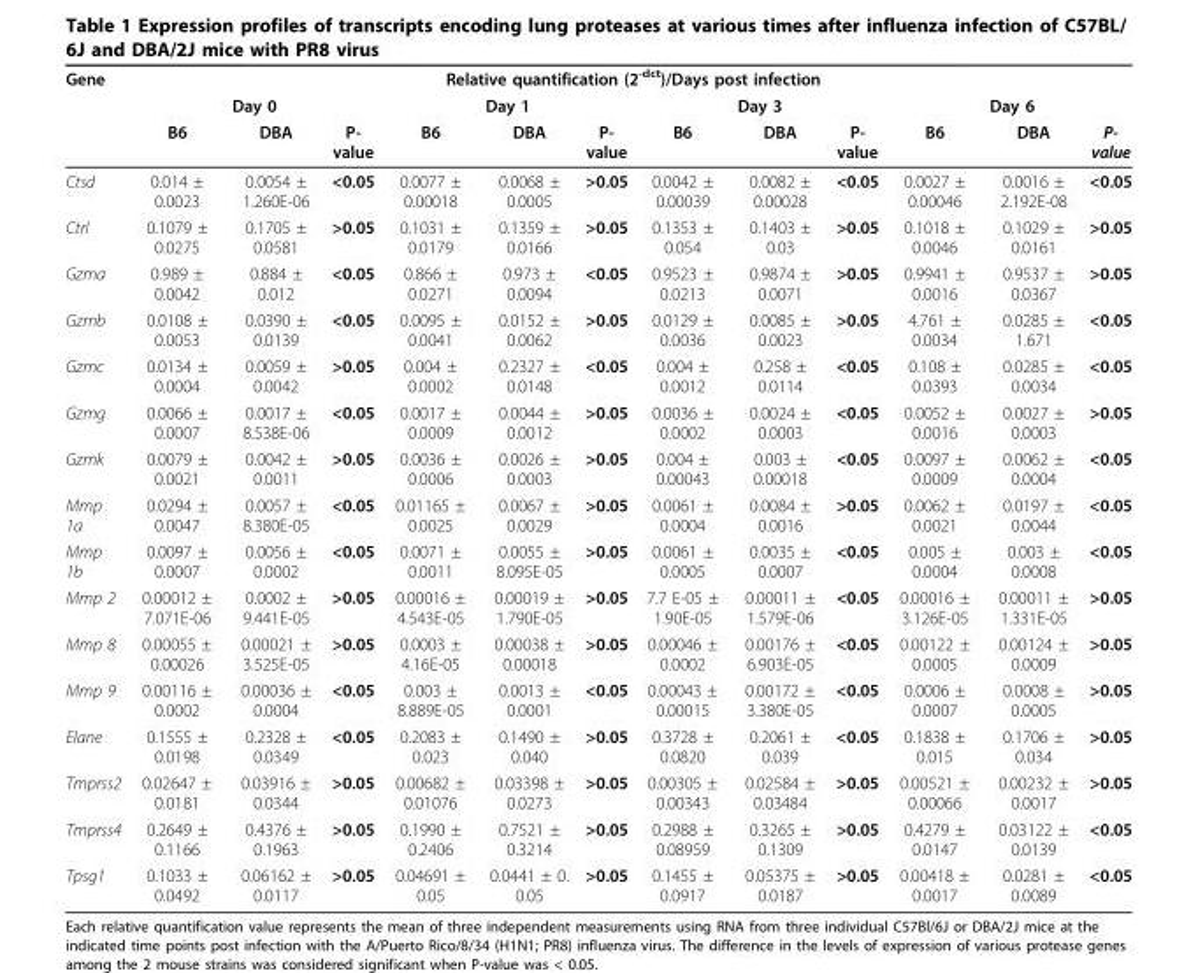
<table><thead><tr><td rowspan="3">Gene</td><td></td><td></td><td></td><td colspan="6">Relative quantification (2<sup>-dct</sup>)/Days post infection</td><td></td><td></td><td></td></tr><tr><td colspan="3">Day 0</td><td colspan="3">Day 1</td><td colspan="3">Day 3</td><td colspan="3">Day 6</td></tr><tr><td>B6</td><td>DBA</td><td>P- value</td><td>B6</td><td>DBA</td><td>P- value</td><td>B6</td><td>DBA</td><td>P- value</td><td>B6</td><td>DBA</td><td>P- value</td></tr></thead><tbody><tr><td>Ctsd</td><td>0.014 ± 0.0023</td><td>0.0054 ± 1.260E-06</td><td>&lt;0.05</td><td>0.0077 ± 0.00018</td><td>0.0068 ± 0.0005</td><td>&gt;0.05</td><td>0.0042 ± 0.00039</td><td>0.0082 ± 0.00028</td><td>&lt;0.05</td><td>0.0027 ± 0.00046</td><td>0.0016 ± 2.192E-08</td><td>&lt;0.05</td></tr><tr><td>Ctrl</td><td>0.1079 ± 0.0275</td><td>0.1705 ± 0.0581</td><td>&gt;0.05</td><td>0.1031 ± 0.0179</td><td>0.1359 ± 0.0166</td><td>&gt;0.05</td><td>0.1353 ± 0.054</td><td>0.1403 ± 0.03</td><td>&gt;0.05</td><td>0.1018 ± 0.0046</td><td>0.1029 ± 0.0161</td><td>&gt;0.05</td></tr><tr><td>Gzma</td><td>0.989 ± 0.0042</td><td>0.884 ± 0.012</td><td>&lt;0.05</td><td>0.866 ± 0.0271</td><td>0.973 ± 0.0094</td><td>&lt;0.05</td><td>0.9523 ± 0.0213</td><td>0.9874 ± 0.0071</td><td>&gt;0.05</td><td>0.9941 ± 0.0016</td><td>0.9537 ± 0.0367</td><td>&gt;0.05</td></tr><tr><td>Gzmb</td><td>0.0108 ± 0.0053</td><td>0.0390 ± 0.0139</td><td>&lt;0.05</td><td>0.0095 ± 0.0041</td><td>0.0152 ± 0.0062</td><td>&gt;0.05</td><td>0.0129 ± 0.0036</td><td>0.0085 ± 0.0023</td><td>&gt;0.05</td><td>4.761 ± 0.0034</td><td>0.0285 ± 1.671</td><td>&lt;0.05</td></tr><tr><td>Gzmc</td><td>0.0134 ± 0.0004</td><td>0.0059 ± 0.0042</td><td>&gt;0.05</td><td>0.004 ± 0.0002</td><td>0.2327 ± 0.0148</td><td>&lt;0.05</td><td>0.004 ± 0.0012</td><td>0.258 ± 0.0114</td><td>&lt;0.05</td><td>0.108 ± 0.0393</td><td>0.0285 ± 0.0034</td><td>&lt;0.05</td></tr><tr><td>Gzmg</td><td>0.0066 ± 0.0007</td><td>0.0017 ± 8.538E-06</td><td>&lt;0.05</td><td>0.0017 ± 0.0009</td><td>0.0044 ± 0.0012</td><td>&gt;0.05</td><td>0.0036 ± 0.0002</td><td>0.0024 ± 0.0003</td><td>&lt;0.05</td><td>0.0052 ± 0.0016</td><td>0.0027 ± 0.0003</td><td>&gt;0.05</td></tr><tr><td>Gzmk</td><td>0.0079 ± 0.0021</td><td>0.0042 ± 0.0011</td><td>&gt;0.05</td><td>0.0036 ± 0.0006</td><td>0.0026 ± 0.0003</td><td>&gt;0.05</td><td>0.004 ± 0.00043</td><td>0.003 ± 0.00018</td><td>&lt;0.05</td><td>0.0097 ± 0.0009</td><td>0.0062 ± 0.0004</td><td>&lt;0.05</td></tr><tr><td>Mmp 1a</td><td>0.0294 ± 0.0047</td><td>0.0057 ± 8.380E-05</td><td>&lt;0.05</td><td>0.01165 ± 0.0025</td><td>0.0067 ± 0.0029</td><td>&gt;0.05</td><td>0.0061 ± 0.0004</td><td>0.0084 ± 0.0016</td><td>&gt;0.05</td><td>0.0062 ± 0.0021</td><td>0.0197 ± 0.0044</td><td>&lt;0.05</td></tr><tr><td>Mmp 1b</td><td>0.0097 ± 0.0007</td><td>0.0056 ± 0.0002</td><td>&lt;0.05</td><td>0.0071 ± 0.0011</td><td>0.0055 ± 8.095E-05</td><td>&gt;0.05</td><td>0.0061 ± 0.0005</td><td>0.0035 ± 0.0007</td><td>&lt;0.05</td><td>0.005 ± 0.0004</td><td>0.003 ± 0.0008</td><td>&lt;0.05</td></tr><tr><td>Mmp 2</td><td>0.00012 ± 7.071E-06</td><td>0.0002 ± 9.441E-05</td><td>&gt;0.05</td><td>0.00016 ± 4.543E-05</td><td>0.00019 ± 1.790E-05</td><td>&gt;0.05</td><td>7.7 E-05 ± 1.90E-05</td><td>0.00011 ± 1.579E-06</td><td>&lt;0.05</td><td>0.00016 ± 3.126E-05</td><td>0.00011 ± 1.331E-05</td><td>&gt;0.05</td></tr><tr><td>Mmp 8</td><td>0.00055 ± 0.00026</td><td>0.00021 ± 3.525E-05</td><td>&gt;0.05</td><td>0.0003 ± 4.16E-05</td><td>0.00038 ± 0.00018</td><td>&gt;0.05</td><td>0.00046 ± 0.0002</td><td>0.00176 ± 6.903E-05</td><td>&lt;0.05</td><td>0.00122 ± 0.0005</td><td>0.00124 ± 0.0009</td><td>&gt;0.05</td></tr><tr><td>Mmp 9</td><td>0.00116 ± 0.0002</td><td>0.00036 ± 0.0004</td><td>&lt;0.05</td><td>0.003 ± 8.889E-05</td><td>0.0013 ± 0.0001</td><td>&lt;0.05</td><td>0.00043 ± 0.00015</td><td>0.00172 ± 3.380E-05</td><td>&lt;0.05</td><td>0.0006 ± 0.0007</td><td>0.0008 ± 0.0005</td><td>&gt;0.05</td></tr><tr><td>Elane</td><td>0.1555 ± 0.0198</td><td>0.2328 ± 0.0349</td><td>&lt;0.05</td><td>0.2083 ± 0.023</td><td>0.1490 ± 0.040</td><td>&gt;0.05</td><td>0.3728 ± 0.0820</td><td>0.2061 ± 0.039</td><td>&lt;0.05</td><td>0.1838 ± 0.015</td><td>0.1706 ± 0.034</td><td>&gt;0.05</td></tr><tr><td>Tmprss2</td><td>0.02647 ± 0.0181</td><td>0.03916 ± 0.0344</td><td>&gt;0.05</td><td>0.00682 ± 0.01076</td><td>0.03398 ± 0.0273</td><td>&gt;0.05</td><td>0.00305 ± 0.00343</td><td>0.02584 ± 0.03484</td><td>&gt;0.05</td><td>0.00521 ± 0.00066</td><td>0.00232 ± 0.0017</td><td>&gt;0.05</td></tr><tr><td>Tmprss4</td><td>0.2649 ± 0.1166</td><td>0.4376 ± 0.1963</td><td>&gt;0.05</td><td>0.1990 ± 0.2406</td><td>0.7521 ± 0.3214</td><td>&gt;0.05</td><td>0.2988 ± 0.08959</td><td>0.3265 ± 0.1309</td><td>&gt;0.05</td><td>0.4279 ± 0.0147</td><td>0.03122 ± 0.0139</td><td>&lt;0.05</td></tr><tr><td>Tpsg1</td><td>0.1033 ± 0.0492</td><td>0.06162 ± 0.0117</td><td>&gt;0.05</td><td>0.04691 ± 0.05</td><td>0.0441 ± 0. 0.05</td><td>&gt;0.05</td><td>0.1455 ± 0.0917</td><td>0.05375 ± 0.0187</td><td>&gt;0.05</td><td>0.00418 ± 0.0017</td><td>0.0281 ± 0.0089</td><td>&lt;0.05</td></tr></tbody></table>